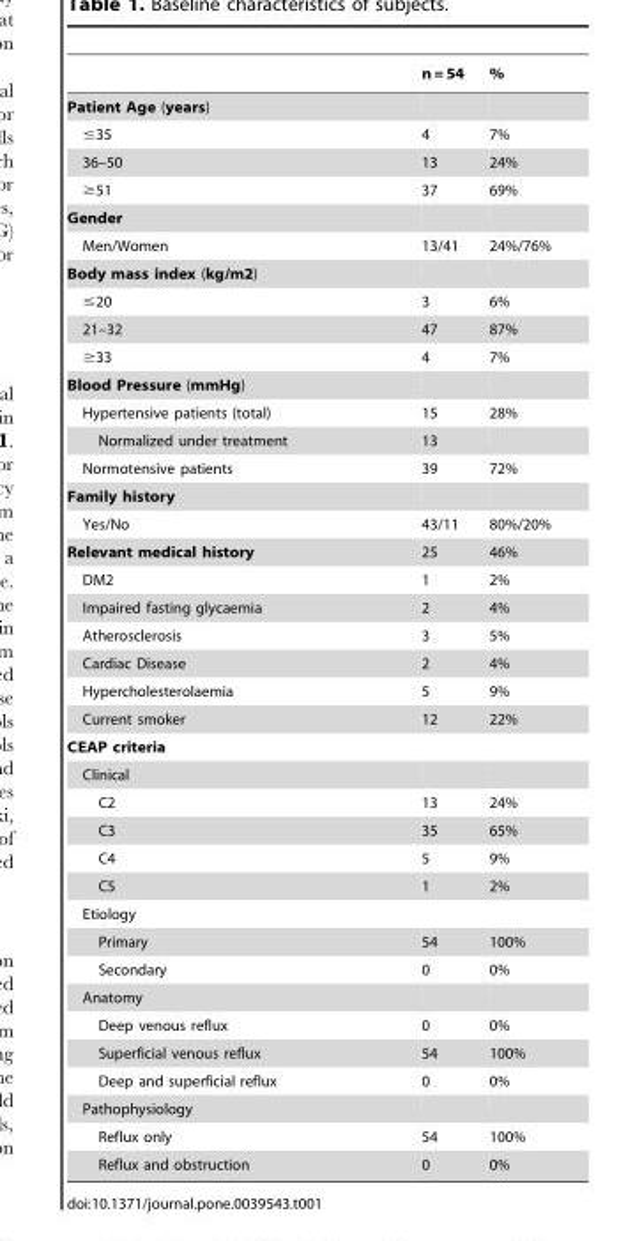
<table><thead><tr><td></td><td>n = 54</td><td>%</td></tr></thead><tbody><tr><td colspan="3">Patient Age (years)</td></tr><tr><td>≤35</td><td>4</td><td>7%</td></tr><tr><td>36–50</td><td>13</td><td>24%</td></tr><tr><td>≥51</td><td>37</td><td>69%</td></tr><tr><td colspan="3">Gender</td></tr><tr><td>Men/Women</td><td>13/41</td><td>24%/76%</td></tr><tr><td colspan="3">Body mass index (kg/m2)</td></tr><tr><td>≤20</td><td>3</td><td>6%</td></tr><tr><td>21–32</td><td>47</td><td>87%</td></tr><tr><td>≥33</td><td>4</td><td>7%</td></tr><tr><td colspan="3">Blood Pressure (mmHg)</td></tr><tr><td>Hypertensive patients (total)</td><td>15</td><td>28%</td></tr><tr><td>Normalized under treatment</td><td>13</td><td></td></tr><tr><td>Normotensive patients</td><td>39</td><td>72%</td></tr><tr><td colspan="3">Family history</td></tr><tr><td>Yes/No</td><td>43/11</td><td>80%/20%</td></tr><tr><td>Relevant medical history</td><td>25</td><td>46%</td></tr><tr><td>DM2</td><td>1</td><td>2%</td></tr><tr><td>Impaired fasting glycaemia</td><td>2</td><td>4%</td></tr><tr><td>Atherosclerosis</td><td>3</td><td>5%</td></tr><tr><td>Cardiac Disease</td><td>2</td><td>4%</td></tr><tr><td>Hypercholesterolaemia</td><td>5</td><td>9%</td></tr><tr><td>Current smoker</td><td>12</td><td>22%</td></tr><tr><td colspan="3">CEAP criteria</td></tr><tr><td colspan="3">Clinical</td></tr><tr><td>C2</td><td>13</td><td>24%</td></tr><tr><td>C3</td><td>35</td><td>65%</td></tr><tr><td>C4</td><td>5</td><td>9%</td></tr><tr><td>C5</td><td>1</td><td>2%</td></tr><tr><td colspan="3">Etiology</td></tr><tr><td>Primary</td><td>54</td><td>100%</td></tr><tr><td>Secondary</td><td>0</td><td>0%</td></tr><tr><td colspan="3">Anatomy</td></tr><tr><td>Deep venous reflux</td><td>0</td><td>0%</td></tr><tr><td>Superficial venous reflux</td><td>54</td><td>100%</td></tr><tr><td>Deep and superficial reflux</td><td>0</td><td>0%</td></tr><tr><td colspan="3">Pathophysiology</td></tr><tr><td>Reflux only</td><td>54</td><td>100%</td></tr><tr><td>Reflux and obstruction</td><td>0</td><td>0%</td></tr></tbody></table>